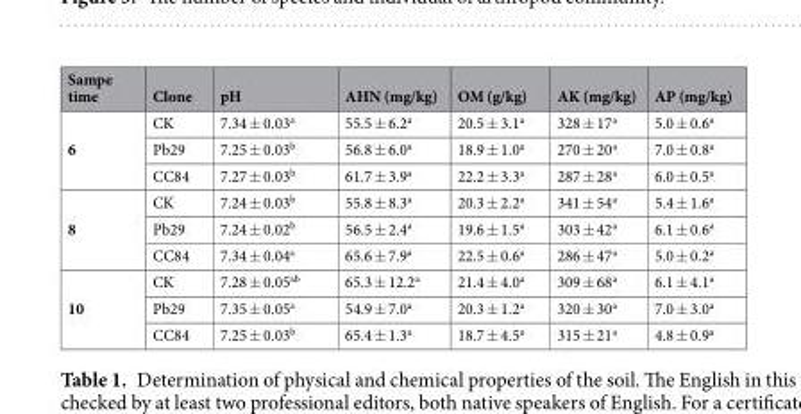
<table><thead><tr><td>Sampe time</td><td>Clone</td><td>pH</td><td>AHN (mg/kg)</td><td>OM (g/kg)</td><td>AK (mg/kg)</td><td>AP (mg/kg)</td></tr></thead><tbody><tr><td rowspan="3">6</td><td>CK</td><td>7.34 ± 0.03<sup>a</sup></td><td>55.5 ± 6.2<sup>a</sup></td><td>20.5 ± 3.1<sup>a</sup></td><td>328 ± 17<sup>a</sup></td><td>5.0 ± 0.6<sup>a</sup></td></tr><tr><td>Pb29</td><td>7.25 ± 0.03<sup>b</sup></td><td>56.8 ± 6.0<sup>a</sup></td><td>18.9 ± 1.0<sup>a</sup></td><td>270 ± 20<sup>a</sup></td><td>7.0 ± 0.8<sup>a</sup></td></tr><tr><td>CC84</td><td>7.27 ± 0.03<sup>b</sup></td><td>61.7 ± 3.9<sup>a</sup></td><td>22.2 ± 3.3<sup>a</sup></td><td>287 ± 28<sup>a</sup></td><td>6.0 ± 0.5<sup>a</sup></td></tr><tr><td rowspan="3">8</td><td>CK</td><td>7.24 ± 0.03<sup>b</sup></td><td>55.8 ± 8.3<sup>a</sup></td><td>20.3 ± 2.2<sup>a</sup></td><td>341 ± 54<sup>a</sup></td><td>5.4 ± 1.6<sup>a</sup></td></tr><tr><td>Pb29</td><td>7.24 ± 0.02<sup>b</sup></td><td>56.5 ± 2.4<sup>a</sup></td><td>19.6 ± 1.5<sup>a</sup></td><td>303 ± 42<sup>a</sup></td><td>6.1 ± 0.6<sup>a</sup></td></tr><tr><td>CC84</td><td>7.34 ± 0.04<sup>a</sup></td><td>65.6 ± 7.9<sup>a</sup></td><td>22.5 ± 0.6<sup>a</sup></td><td>286 ± 47<sup>a</sup></td><td>5.0 ± 0.2<sup>a</sup></td></tr><tr><td rowspan="3">10</td><td>CK</td><td>7.28 ± 0.05<sup>ab</sup></td><td>65.3 ± 12.2<sup>a</sup></td><td>21.4 ± 4.0<sup>a</sup></td><td>309 ± 68<sup>a</sup></td><td>6.1 ± 4.1<sup>a</sup></td></tr><tr><td>Pb29</td><td>7.35 ± 0.05<sup>a</sup></td><td>54.9 ± 7.0<sup>a</sup></td><td>20.3 ± 1.2<sup>a</sup></td><td>320 ± 30<sup>a</sup></td><td>7.0 ± 3.0<sup>a</sup></td></tr><tr><td>CC84</td><td>7.25 ± 0.03<sup>b</sup></td><td>65.4 ± 1.3<sup>a</sup></td><td>18.7 ± 4.5<sup>a</sup></td><td>315 ± 21<sup>a</sup></td><td>4.8 ± 0.9<sup>a</sup></td></tr></tbody></table>